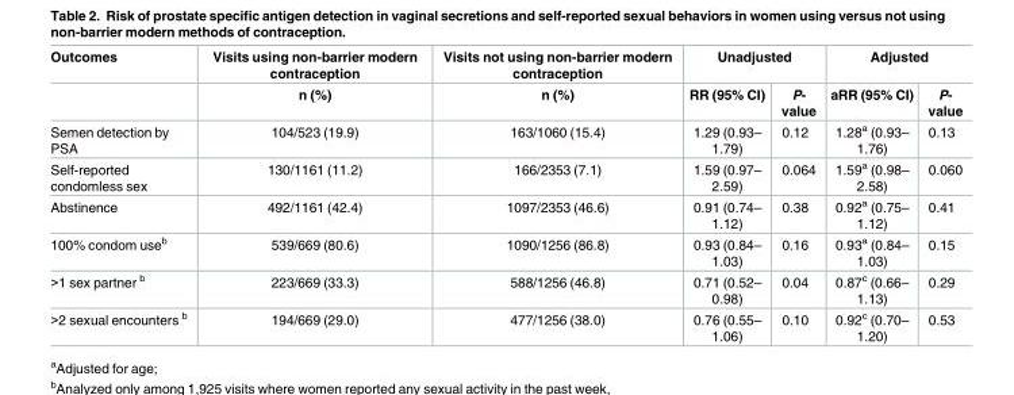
<table><thead><tr><td rowspan="2">Outcomes</td><td rowspan="2">Visits using non-barrier modern contraception n (%)</td><td rowspan="2">Visits not using non-barrier modern contraception n (%)</td><td colspan="2">Unadjusted</td><td colspan="2">Adjusted</td></tr><tr><td>RR (95% CI)</td><td>P- value</td><td>aRR (95% CI)</td><td>P- value</td></tr></thead><tbody><tr><td>Semen detection by PSA</td><td>104/523 (19.9)</td><td>163/1060 (15.4)</td><td>1.29 (0.93– 1.79)</td><td>0.12</td><td>1.28<sup>a</sup> (0.93– 1.76)</td><td>0.13</td></tr><tr><td>Self-reported condomless sex</td><td>130/1161 (11.2)</td><td>166/2353 (7.1)</td><td>1.59 (0.97– 2.59)</td><td>0.064</td><td>1.59<sup>a</sup> (0.98– 2.58)</td><td>0.060</td></tr><tr><td>Abstinence</td><td>492/1161 (42.4)</td><td>1097/2353 (46.6)</td><td>0.91 (0.74– 1.12)</td><td>0.38</td><td>0.92<sup>a</sup> (0.75– 1.12)</td><td>0.41</td></tr><tr><td>100% condom use<sup>b</sup></td><td>539/669 (80.6)</td><td>1090/1256 (86.8)</td><td>0.93 (0.84– 1.03)</td><td>0.16</td><td>0.93<sup>a</sup> (0.84– 1.03)</td><td>0.15</td></tr><tr><td>&gt;1 sex partner <sup>b</sup></td><td>223/669 (33.3)</td><td>588/1256 (46.8)</td><td>0.71 (0.52– 0.98)</td><td>0.04</td><td>0.87<sup>c</sup> (0.66– 1.13)</td><td>0.29</td></tr><tr><td>&gt;2 sexual encounters <sup>b</sup></td><td>194/669 (29.0)</td><td>477/1256 (38.0)</td><td>0.76 (0.55– 1.06)</td><td>0.10</td><td>0.92<sup>c</sup> (0.70– 1.20)</td><td>0.53</td></tr></tbody></table>